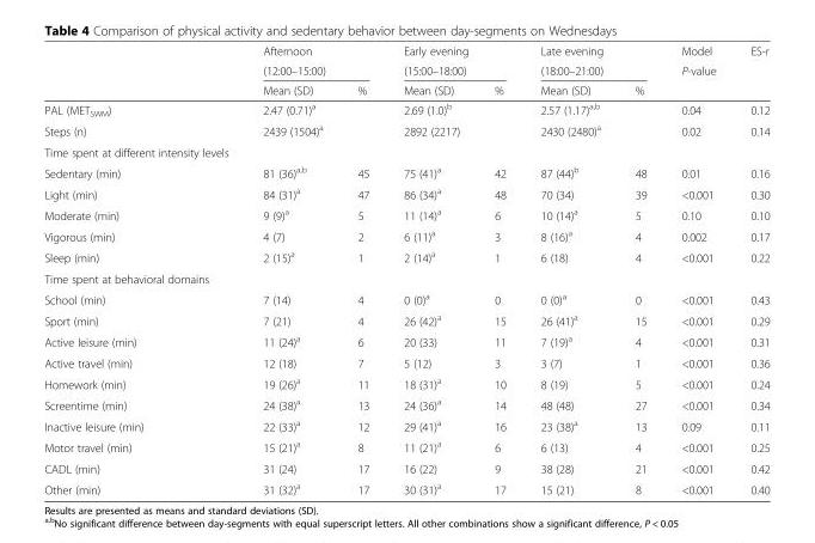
<table><thead><tr><td rowspan="3"></td><td rowspan="2" colspan="2">Afternoon (12:00–15:00)</td><td rowspan="2" colspan="2">Early evening (15:00–18:00)</td><td rowspan="2" colspan="2">Late evening (18:00–21:00)</td><td rowspan="3">Model P-value</td><td rowspan="3">ES-r</td></tr><tr></tr><tr><td>Mean (SD)</td><td>%</td><td>Mean (SD)</td><td>%</td><td>Mean (SD)</td><td>%</td></tr></thead><tbody><tr><td>PAL (MET<sub>SWM</sub>)</td><td>2.47 (0.71)<sup>a</sup></td><td></td><td>2.69 (1.0)<sup>b</sup></td><td></td><td>2.57 (1.17)<sup>a,b</sup></td><td></td><td>0.04</td><td>0.12</td></tr><tr><td>Steps (n)</td><td>2439 (1504)<sup>a</sup></td><td></td><td>2892 (2217)</td><td></td><td>2430 (2480)<sup>a</sup></td><td></td><td>0.02</td><td>0.14</td></tr><tr><td colspan="9">Time spent at different intensity levels</td></tr><tr><td>Sedentary (min)</td><td>81 (36)<sup>a,b</sup></td><td>45</td><td>75 (41)<sup>a</sup></td><td>42</td><td>87 (44)<sup>b</sup></td><td>48</td><td>0.01</td><td>0.16</td></tr><tr><td>Light (min)</td><td>84 (31)<sup>a</sup></td><td>47</td><td>86 (34)<sup>a</sup></td><td>48</td><td>70 (34)</td><td>39</td><td>&lt;0.001</td><td>0.30</td></tr><tr><td>Moderate (min)</td><td>9 (9)<sup>a</sup></td><td>5</td><td>11 (14)<sup>a</sup></td><td>6</td><td>10 (14)<sup>a</sup></td><td>5</td><td>0.10</td><td>0.10</td></tr><tr><td>Vigorous (min)</td><td>4 (7)</td><td>2</td><td>6 (11)<sup>a</sup></td><td>3</td><td>8 (16)<sup>a</sup></td><td>4</td><td>0.002</td><td>0.17</td></tr><tr><td>Sleep (min)</td><td>2 (15)<sup>a</sup></td><td>1</td><td>2 (14)<sup>a</sup></td><td>1</td><td>6 (18)</td><td>4</td><td>&lt;0.001</td><td>0.22</td></tr><tr><td colspan="9">Time spent at behavioral domains</td></tr><tr><td>School (min)</td><td>7 (14)</td><td>4</td><td>0 (0)<sup>a</sup></td><td>0</td><td>0 (0)<sup>a</sup></td><td>0</td><td>&lt;0.001</td><td>0.43</td></tr><tr><td>Sport (min)</td><td>7 (21)</td><td>4</td><td>26 (42)<sup>a</sup></td><td>15</td><td>26 (41)<sup>a</sup></td><td>15</td><td>&lt;0.001</td><td>0.29</td></tr><tr><td>Active leisure (min)</td><td>11 (24)<sup>a</sup></td><td>6</td><td>20 (33)</td><td>11</td><td>7 (19)<sup>a</sup></td><td>4</td><td>&lt;0.001</td><td>0.31</td></tr><tr><td>Active travel (min)</td><td>12 (18)</td><td>7</td><td>5 (12)</td><td>3</td><td>3 (7)</td><td>1</td><td>&lt;0.001</td><td>0.36</td></tr><tr><td>Homework (min)</td><td>19 (26)<sup>a</sup></td><td>11</td><td>18 (31)<sup>a</sup></td><td>10</td><td>8 (19)</td><td>5</td><td>&lt;0.001</td><td>0.24</td></tr><tr><td>Screentime (min)</td><td>24 (38)<sup>a</sup></td><td>13</td><td>24 (36)<sup>a</sup></td><td>14</td><td>48 (48)</td><td>27</td><td>&lt;0.001</td><td>0.34</td></tr><tr><td>Inactive leisure (min)</td><td>22 (33)<sup>a</sup></td><td>12</td><td>29 (41)<sup>a</sup></td><td>16</td><td>23 (38)<sup>a</sup></td><td>13</td><td>0.09</td><td>0.11</td></tr><tr><td>Motor travel (min)</td><td>15 (21)<sup>a</sup></td><td>8</td><td>11 (21)<sup>a</sup></td><td>6</td><td>6 (13)</td><td>4</td><td>&lt;0.001</td><td>0.25</td></tr><tr><td>CADL (min)</td><td>31 (24)</td><td>17</td><td>16 (22)</td><td>9</td><td>38 (28)</td><td>21</td><td>&lt;0.001</td><td>0.42</td></tr><tr><td>Other (min)</td><td>31 (32)<sup>a</sup></td><td>17</td><td>30 (31)<sup>a</sup></td><td>17</td><td>15 (21)</td><td>8</td><td>&lt;0.001</td><td>0.40</td></tr></tbody></table>